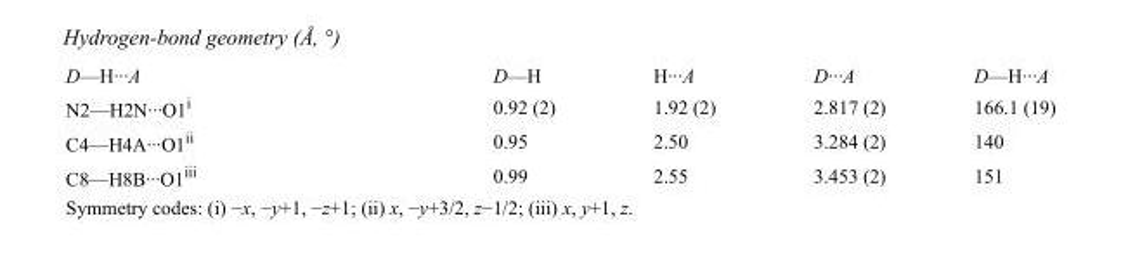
<table><tbody><tr><td>D—H···A</td><td>D—H</td><td>H···A</td><td>D···A</td><td>D—H···A</td></tr><tr><td>N2—H2N···O1<sup>i</sup></td><td>0.92 (2)</td><td>1.92 (2)</td><td>2.817 (2)</td><td>166.1 (19)</td></tr><tr><td>C4—H4A···O1<sup>ii</sup></td><td>0.95</td><td>2.50</td><td>3.284 (2)</td><td>140</td></tr><tr><td>C8—H8B···O1<sup>iii</sup></td><td>0.99</td><td>2.55</td><td>3.453 (2)</td><td>151</td></tr></tbody></table>